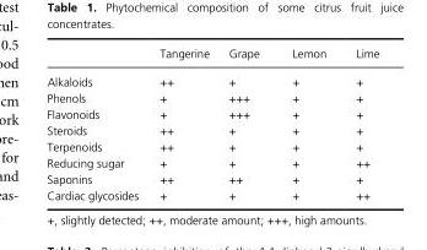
<table><thead><tr><td></td><td>Tangerine</td><td>Grape</td><td>Lemon</td><td>Lime</td></tr></thead><tbody><tr><td>Alkaloids</td><td>++</td><td>+</td><td>+</td><td>+</td></tr><tr><td>Phenols</td><td>+</td><td>+++</td><td>+</td><td>+</td></tr><tr><td>Flavonoids</td><td>+</td><td>+++</td><td>+</td><td>+</td></tr><tr><td>Steroids</td><td>++</td><td>+</td><td>+</td><td>+</td></tr><tr><td>Terpenoids</td><td>++</td><td>+</td><td>+</td><td>+</td></tr><tr><td>Reducing sugar</td><td>+</td><td>+</td><td>+</td><td>++</td></tr><tr><td>Saponins</td><td>++</td><td>++</td><td>+</td><td>+</td></tr><tr><td>Cardiac glycosides</td><td>+</td><td>+</td><td>+</td><td>++</td></tr></tbody></table>